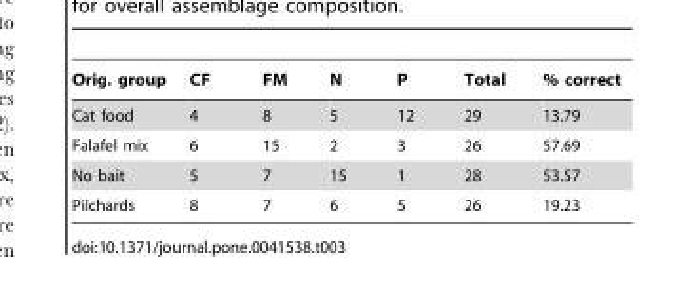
<table><thead><tr><td>Orig. group</td><td>CF</td><td>FM</td><td>N</td><td>P</td><td>Total</td><td>% correct</td></tr></thead><tbody><tr><td>Cat food</td><td>4</td><td>8</td><td>5</td><td>12</td><td>29</td><td>13.79</td></tr><tr><td>Falafel mix</td><td>6</td><td>15</td><td>2</td><td>3</td><td>26</td><td>57.69</td></tr><tr><td>No bait</td><td>5</td><td>7</td><td>15</td><td>1</td><td>28</td><td>53.57</td></tr><tr><td>Pilchards</td><td>8</td><td>7</td><td>6</td><td>5</td><td>26</td><td>19.23</td></tr></tbody></table>